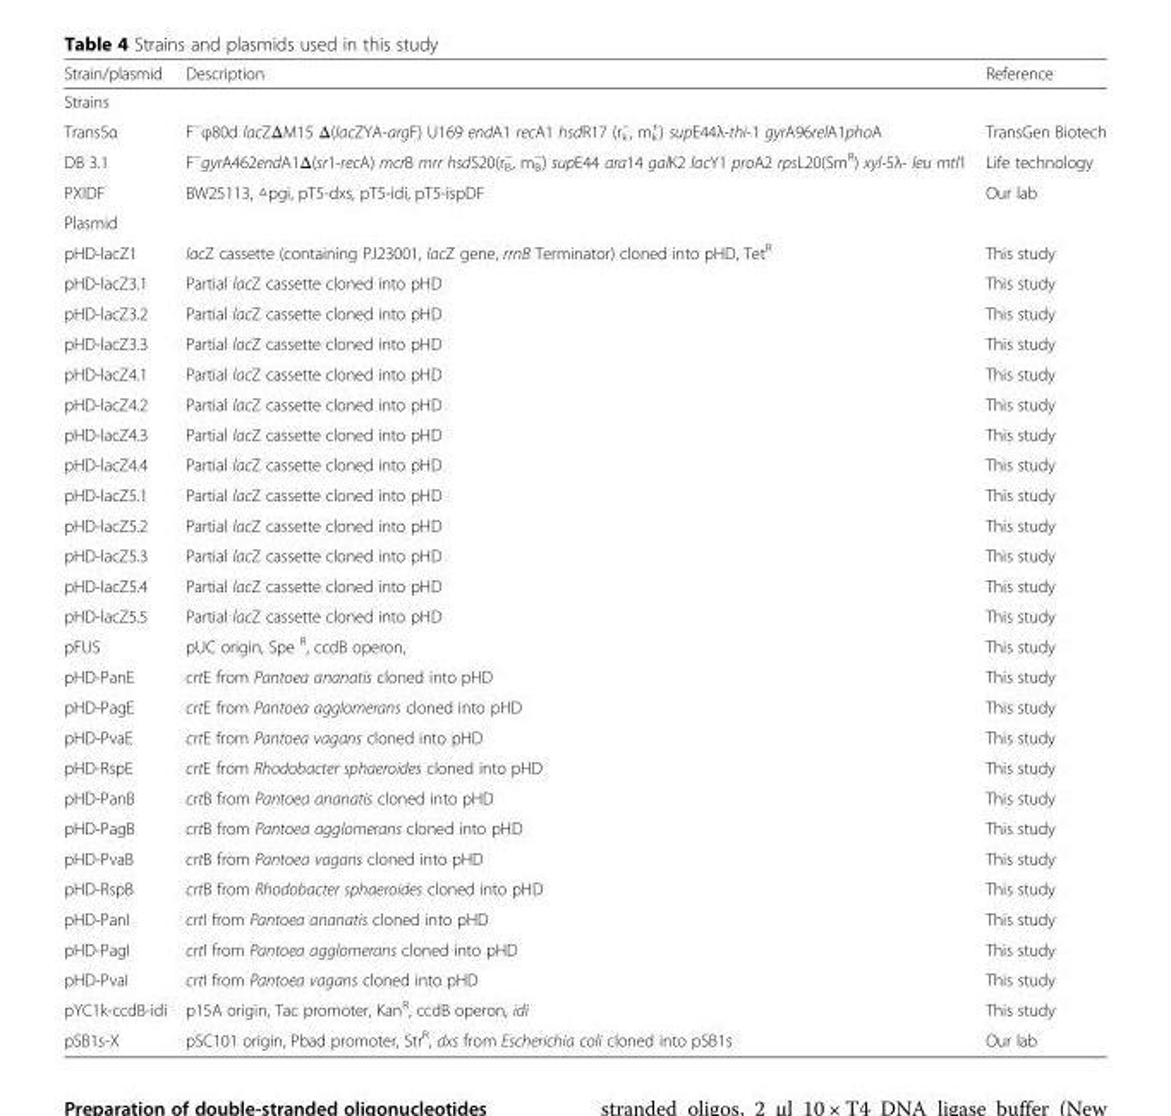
<table><thead><tr><td>Strain/plasmid</td><td>Description</td><td>Reference</td></tr></thead><tbody><tr><td colspan="3">Strains</td></tr><tr><td>Trans5α</td><td>F<sup>−</sup>φ80d lacZΔM15 Δ(lacZYA-argF) U169 endA1 recA1 hsdR17 (r<sub>k</sub> <sup>−</sup>, m<sub>k</sub> <sup>+</sup>) supE44λ-thi-1 gyrA96relA1phoA</td><td>TransGen Biotech</td></tr><tr><td>DB 3.1</td><td>F<sup>−</sup>gyrA462endA1Δ(sr1-recA) mcrB mrr hsdS20(r<sub>B</sub> <sup>−</sup>, m<sub>B</sub> <sup>−</sup>) supE44 ara14 galK2 lacY1 proA2 rpsL20(Sm<sup>R</sup>) xyl-5λ- leu mtl1</td><td>Life technology</td></tr><tr><td>PXIDF</td><td>BW25113, △pgi, pT5-dxs, pT5-idi, pT5-ispDF</td><td>Our lab</td></tr><tr><td colspan="3">Plasmid</td></tr><tr><td>pHD-lacZ1</td><td>lacZ cassette (containing PJ23001, lacZ gene, rrnB Terminator) cloned into pHD, Tet<sup>R</sup></td><td>This study</td></tr><tr><td>pHD-lacZ3.1</td><td>Partial lacZ cassette cloned into pHD</td><td>This study</td></tr><tr><td>pHD-lacZ3.2</td><td>Partial lacZ cassette cloned into pHD</td><td>This study</td></tr><tr><td>pHD-lacZ3.3</td><td>Partial lacZ cassette cloned into pHD</td><td>This study</td></tr><tr><td>pHD-lacZ4.1</td><td>Partial lacZ cassette cloned into pHD</td><td>This study</td></tr><tr><td>pHD-lacZ4.2</td><td>Partial lacZ cassette cloned into pHD</td><td>This study</td></tr><tr><td>pHD-lacZ4.3</td><td>Partial lacZ cassette cloned into pHD</td><td>This study</td></tr><tr><td>pHD-lacZ4.4</td><td>Partial lacZ cassette cloned into pHD</td><td>This study</td></tr><tr><td>pHD-lacZ5.1</td><td>Partial lacZ cassette cloned into pHD</td><td>This study</td></tr><tr><td>pHD-lacZ5.2</td><td>Partial lacZ cassette cloned into pHD</td><td>This study</td></tr><tr><td>pHD-lacZ5.3</td><td>Partial lacZ cassette cloned into pHD</td><td>This study</td></tr><tr><td>pHD-lacZ5.4</td><td>Partial lacZ cassette cloned into pHD</td><td>This study</td></tr><tr><td>pHD-lacZ5.5</td><td>Partial lacZ cassette cloned into pHD</td><td>This study</td></tr><tr><td>pFUS</td><td>pUC origin, Spe <sup>R</sup>, ccdB operon,</td><td>This study</td></tr><tr><td>pHD-PanE</td><td>crtE from Pantoea ananatis cloned into pHD</td><td>This study</td></tr><tr><td>pHD-PagE</td><td>crtE from Pantoea agglomerans cloned into pHD</td><td>This study</td></tr><tr><td>pHD-PvaE</td><td>crtE from Pantoea vagans cloned into pHD</td><td>This study</td></tr><tr><td>pHD-RspE</td><td>crtE from Rhodobacter sphaeroides cloned into pHD</td><td>This study</td></tr><tr><td>pHD-PanB</td><td>crtB from Pantoea ananatis cloned into pHD</td><td>This study</td></tr><tr><td>pHD-PagB</td><td>crtB from Pantoea agglomerans cloned into pHD</td><td>This study</td></tr><tr><td>pHD-PvaB</td><td>crtB from Pantoea vagans cloned into pHD</td><td>This study</td></tr><tr><td>pHD-RspB</td><td>crtB from Rhodobacter sphaeroides cloned into pHD</td><td>This study</td></tr><tr><td>pHD-PanI</td><td>crtI from Pantoea ananatis cloned into pHD</td><td>This study</td></tr><tr><td>pHD-PagI</td><td>crtI from Pantoea agglomerans cloned into pHD</td><td>This study</td></tr><tr><td>pHD-PvaI</td><td>crtI from Pantoea vagans cloned into pHD</td><td>This study</td></tr><tr><td>pYC1k-ccdB-idi</td><td>p15A origin, Tac promoter, Kan<sup>R</sup>, ccdB operon, idi</td><td>This study</td></tr><tr><td>pSB1s-X</td><td>pSC101 origin, Pbad promoter, Str<sup>R</sup>, dxs from Escherichia coli cloned into pSB1s</td><td>Our lab</td></tr></tbody></table>